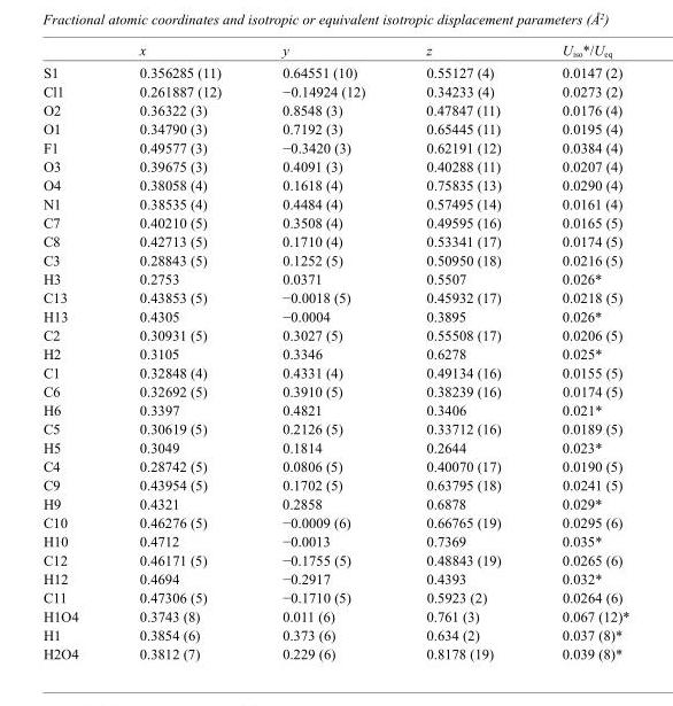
<table><thead><tr><td></td><td>x</td><td>y</td><td>z</td><td>U<sub>iso</sub>*/U<sub>eq</sub></td></tr></thead><tbody><tr><td>S1</td><td>0.356285 (11)</td><td>0.64551 (10)</td><td>0.55127 (4)</td><td>0.0147 (2)</td></tr><tr><td>Cl1</td><td>0.261887 (12)</td><td>−0.14924 (12)</td><td>0.34233 (4)</td><td>0.0273 (2)</td></tr><tr><td>O2</td><td>0.36322 (3)</td><td>0.8548 (3)</td><td>0.47847 (11)</td><td>0.0176 (4)</td></tr><tr><td>O1</td><td>0.34790 (3)</td><td>0.7192 (3)</td><td>0.65445 (11)</td><td>0.0195 (4)</td></tr><tr><td>F1</td><td>0.49577 (3)</td><td>−0.3420 (3)</td><td>0.62191 (12)</td><td>0.0384 (4)</td></tr><tr><td>O3</td><td>0.39675 (3)</td><td>0.4091 (3)</td><td>0.40288 (11)</td><td>0.0207 (4)</td></tr><tr><td>O4</td><td>0.38058 (4)</td><td>0.1618 (4)</td><td>0.75835 (13)</td><td>0.0290 (4)</td></tr><tr><td>N1</td><td>0.38535 (4)</td><td>0.4484 (4)</td><td>0.57495 (14)</td><td>0.0161 (4)</td></tr><tr><td>C7</td><td>0.40210 (5)</td><td>0.3508 (4)</td><td>0.49595 (16)</td><td>0.0165 (5)</td></tr><tr><td>C8</td><td>0.42713 (5)</td><td>0.1710 (4)</td><td>0.53341 (17)</td><td>0.0174 (5)</td></tr><tr><td>C3</td><td>0.28843 (5)</td><td>0.1252 (5)</td><td>0.50950 (18)</td><td>0.0216 (5)</td></tr><tr><td>H3</td><td>0.2753</td><td>0.0371</td><td>0.5507</td><td>0.026*</td></tr><tr><td>C13</td><td>0.43853 (5)</td><td>−0.0018 (5)</td><td>0.45932 (17)</td><td>0.0218 (5)</td></tr><tr><td>H13</td><td>0.4305</td><td>−0.0004</td><td>0.3895</td><td>0.026*</td></tr><tr><td>C2</td><td>0.30931 (5)</td><td>0.3027 (5)</td><td>0.55508 (17)</td><td>0.0206 (5)</td></tr><tr><td>H2</td><td>0.3105</td><td>0.3346</td><td>0.6278</td><td>0.025*</td></tr><tr><td>C1</td><td>0.32848 (4)</td><td>0.4331 (4)</td><td>0.49134 (16)</td><td>0.0155 (5)</td></tr><tr><td>C6</td><td>0.32692 (5)</td><td>0.3910 (5)</td><td>0.38239 (16)</td><td>0.0174 (5)</td></tr><tr><td>H6</td><td>0.3397</td><td>0.4821</td><td>0.3406</td><td>0.021*</td></tr><tr><td>C5</td><td>0.30619 (5)</td><td>0.2126 (5)</td><td>0.33712 (16)</td><td>0.0189 (5)</td></tr><tr><td>H5</td><td>0.3049</td><td>0.1814</td><td>0.2644</td><td>0.023*</td></tr><tr><td>C4</td><td>0.28742 (5)</td><td>0.0806 (5)</td><td>0.40070 (17)</td><td>0.0190 (5)</td></tr><tr><td>C9</td><td>0.43954 (5)</td><td>0.1702 (5)</td><td>0.63795 (18)</td><td>0.0241 (5)</td></tr><tr><td>H9</td><td>0.4321</td><td>0.2858</td><td>0.6878</td><td>0.029*</td></tr><tr><td>C10</td><td>0.46276 (5)</td><td>−0.0009 (6)</td><td>0.66765 (19)</td><td>0.0295 (6)</td></tr><tr><td>H10</td><td>0.4712</td><td>−0.0013</td><td>0.7369</td><td>0.035*</td></tr><tr><td>C12</td><td>0.46171 (5)</td><td>−0.1755 (5)</td><td>0.48843 (19)</td><td>0.0265 (6)</td></tr><tr><td>H12</td><td>0.4694</td><td>−0.2917</td><td>0.4393</td><td>0.032*</td></tr><tr><td>C11</td><td>0.47306 (5)</td><td>−0.1710 (5)</td><td>0.5923 (2)</td><td>0.0264 (6)</td></tr><tr><td>H1O4</td><td>0.3743 (8)</td><td>0.011 (6)</td><td>0.761 (3)</td><td>0.067 (12)*</td></tr><tr><td>H1</td><td>0.3854 (6)</td><td>0.373 (6)</td><td>0.634 (2)</td><td>0.037 (8)*</td></tr><tr><td>H2O4</td><td>0.3812 (7)</td><td>0.229 (6)</td><td>0.8178 (19)</td><td>0.039 (8)*</td></tr></tbody></table>